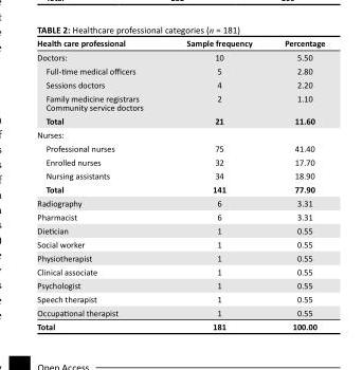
<table><thead><tr><td>Health care professional</td><td>Sample frequency</td><td>Percentage</td></tr></thead><tbody><tr><td>Doctors:</td><td>10</td><td>5.50</td></tr><tr><td>Full-time medical officers</td><td>5</td><td>2.80</td></tr><tr><td>Sessions doctors</td><td>4</td><td>2.20</td></tr><tr><td>Family medicine registrars Community service doctors</td><td>2</td><td>1.10</td></tr><tr><td>Total</td><td>21</td><td>11.60</td></tr><tr><td colspan="3">Nurses:</td></tr><tr><td>Professional nurses</td><td>75</td><td>41.40</td></tr><tr><td>Enrolled nurses</td><td>32</td><td>17.70</td></tr><tr><td>Nursing assistants</td><td>34</td><td>18.90</td></tr><tr><td>Total</td><td>141</td><td>77.90</td></tr><tr><td>Radiography</td><td>6</td><td>3.31</td></tr><tr><td>Pharmacist</td><td>6</td><td>3.31</td></tr><tr><td>Dietician</td><td>1</td><td>0.55</td></tr><tr><td>Social worker</td><td>1</td><td>0.55</td></tr><tr><td>Physiotherapist</td><td>1</td><td>0.55</td></tr><tr><td>Clinical associate</td><td>1</td><td>0.55</td></tr><tr><td>Psychologist</td><td>1</td><td>0.55</td></tr><tr><td>Speech therapist</td><td>1</td><td>0.55</td></tr><tr><td>Occupational therapist</td><td>1</td><td>0.55</td></tr><tr><td>Total</td><td>181</td><td>100.00</td></tr></tbody></table>